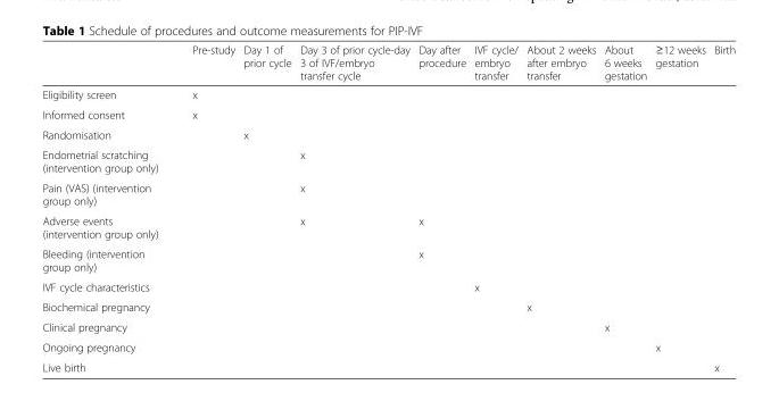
<table><thead><tr><td></td><td>Pre-study</td><td>Day 1 of prior cycle</td><td>Day 3 of prior cycle-day 3 of IVF/embryo transfer cycle</td><td>Day after procedure</td><td>IVF cycle/ embryo transfer</td><td>About 2 weeks after embryo transfer</td><td>About 6 weeks gestation</td><td>≥12 weeks gestation</td><td>Birth</td></tr></thead><tbody><tr><td>Eligibility screen</td><td>x</td><td></td><td></td><td></td><td></td><td></td><td></td><td></td><td></td></tr><tr><td>Informed consent</td><td>x</td><td></td><td></td><td></td><td></td><td></td><td></td><td></td><td></td></tr><tr><td>Randomisation</td><td></td><td>x</td><td></td><td></td><td></td><td></td><td></td><td></td><td></td></tr><tr><td>Endometrial scratching (intervention group only)</td><td></td><td></td><td>x</td><td></td><td></td><td></td><td></td><td></td><td></td></tr><tr><td>Pain (VAS) (intervention group only)</td><td></td><td></td><td>x</td><td></td><td></td><td></td><td></td><td></td><td></td></tr><tr><td>Adverse events (intervention group only)</td><td></td><td></td><td>x</td><td>x</td><td></td><td></td><td></td><td></td><td></td></tr><tr><td>Bleeding (intervention group only)</td><td></td><td></td><td></td><td>x</td><td></td><td></td><td></td><td></td><td></td></tr><tr><td>IVF cycle characteristics</td><td></td><td></td><td></td><td></td><td>x</td><td></td><td></td><td></td><td></td></tr><tr><td>Biochemical pregnancy</td><td></td><td></td><td></td><td></td><td></td><td>x</td><td></td><td></td><td></td></tr><tr><td>Clinical pregnancy</td><td></td><td></td><td></td><td></td><td></td><td></td><td>x</td><td></td><td></td></tr><tr><td>Ongoing pregnancy</td><td></td><td></td><td></td><td></td><td></td><td></td><td></td><td>x</td><td></td></tr><tr><td>Live birth</td><td></td><td></td><td></td><td></td><td></td><td></td><td></td><td></td><td>x</td></tr></tbody></table>